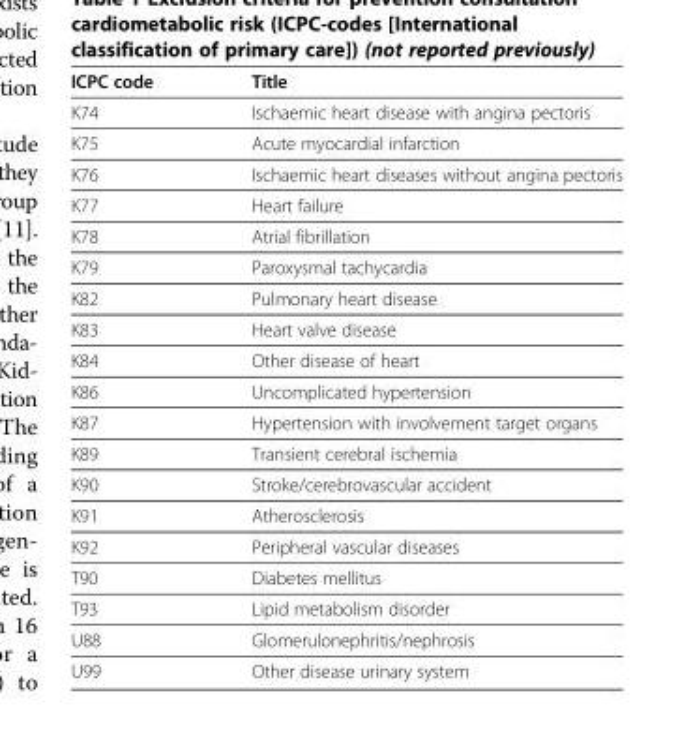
<table><thead><tr><td>ICPC code</td><td>Title</td></tr></thead><tbody><tr><td>K74</td><td>Ischaemic heart disease with angina pectoris</td></tr><tr><td>K75</td><td>Acute myocardial infarction</td></tr><tr><td>K76</td><td>Ischaemic heart diseases without angina pectoris</td></tr><tr><td>K77</td><td>Heart failure</td></tr><tr><td>K78</td><td>Atrial fibrillation</td></tr><tr><td>K79</td><td>Paroxysmal tachycardia</td></tr><tr><td>K82</td><td>Pulmonary heart disease</td></tr><tr><td>K83</td><td>Heart valve disease</td></tr><tr><td>K84</td><td>Other disease of heart</td></tr><tr><td>K86</td><td>Uncomplicated hypertension</td></tr><tr><td>K87</td><td>Hypertension with involvement target organs</td></tr><tr><td>K89</td><td>Transient cerebral ischemia</td></tr><tr><td>K90</td><td>Stroke/cerebrovascular accident</td></tr><tr><td>K91</td><td>Atherosclerosis</td></tr><tr><td>K92</td><td>Peripheral vascular diseases</td></tr><tr><td>T90</td><td>Diabetes mellitus</td></tr><tr><td>T93</td><td>Lipid metabolism disorder</td></tr><tr><td>U88</td><td>Glomerulonephritis/nephrosis</td></tr><tr><td>U99</td><td>Other disease urinary system</td></tr></tbody></table>